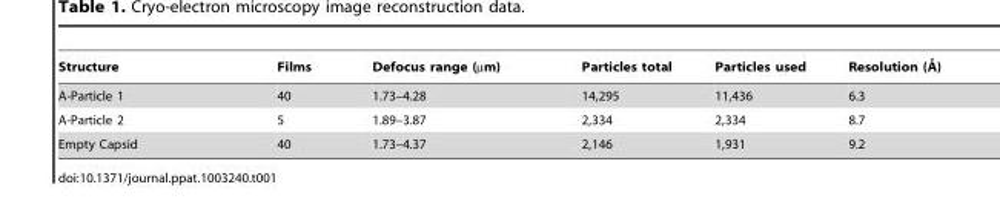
<table><thead><tr><td>Structure</td><td>Films</td><td>Defocus range (µm)</td><td>Particles total</td><td>Particles used</td><td>Resolution (A˚ )</td></tr></thead><tbody><tr><td>A-Particle 1</td><td>40</td><td>1.73–4.28</td><td>14,295</td><td>11,436</td><td>6.3</td></tr><tr><td>A-Particle 2</td><td>5</td><td>1.89–3.87</td><td>2,334</td><td>2,334</td><td>8.7</td></tr><tr><td>Empty Capsid</td><td>40</td><td>1.73–4.37</td><td>2,146</td><td>1,931</td><td>9.2</td></tr></tbody></table>